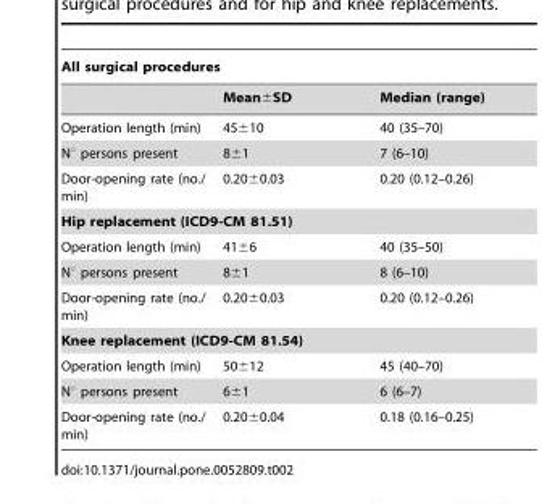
<table><thead><tr><td colspan="3">All surgical procedures</td></tr><tr><td></td><td>Mean±SD</td><td>Median (range)</td></tr></thead><tbody><tr><td>Operation length (min)</td><td>45±10</td><td>40 (35–70)</td></tr><tr><td>N° persons present</td><td>8±1</td><td>7 (6–10)</td></tr><tr><td>Door-opening rate (no./ min)</td><td>0.20±0.03</td><td>0.20 (0.12–0.26)</td></tr><tr><td colspan="3">Hip replacement (ICD9-CM 81.51)</td></tr><tr><td>Operation length (min)</td><td>41±6</td><td>40 (35–50)</td></tr><tr><td>N° persons present</td><td>8±1</td><td>8 (6–10)</td></tr><tr><td>Door-opening rate (no./ min)</td><td>0.20±0.03</td><td>0.20 (0.12–0.26)</td></tr><tr><td colspan="3">Knee replacement (ICD9-CM 81.54)</td></tr><tr><td>Operation length (min)</td><td>50±12</td><td>45 (40–70)</td></tr><tr><td>N° persons present</td><td>6±1</td><td>6 (6–7)</td></tr><tr><td>Door-opening rate (no./ min)</td><td>0.20±0.04</td><td>0.18 (0.16–0.25)</td></tr></tbody></table>